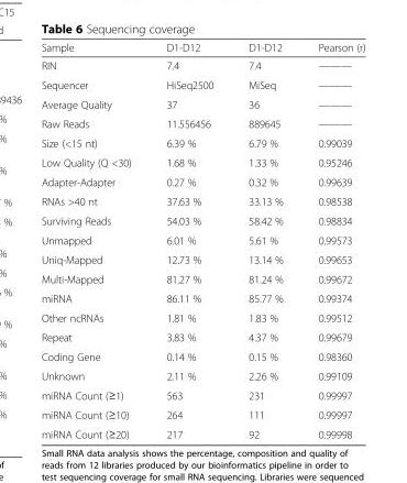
<table><thead><tr><td>Sample</td><td>D1-D12</td><td>D1-D12</td><td>Pearson (r)</td></tr></thead><tbody><tr><td>RIN</td><td>7.4</td><td>7.4</td><td>———</td></tr><tr><td>Sequencer</td><td>HiSeq2500</td><td>MiSeq</td><td>———</td></tr><tr><td>Average Quality</td><td>37</td><td>36</td><td>———</td></tr><tr><td>Raw Reads</td><td>11.556456</td><td>889645</td><td>———</td></tr><tr><td>Size (&lt;15 nt)</td><td>6.39 %</td><td>6.79 %</td><td>0.99039</td></tr><tr><td>Low Quality (Q &lt;30)</td><td>1.68 %</td><td>1.33 %</td><td>0.95246</td></tr><tr><td>Adapter-Adapter</td><td>0.27 %</td><td>0.32 %</td><td>0.99639</td></tr><tr><td>RNAs &gt;40 nt</td><td>37.63 %</td><td>33.13 %</td><td>0.98538</td></tr><tr><td>Surviving Reads</td><td>54.03 %</td><td>58.42 %</td><td>0.98834</td></tr><tr><td>Unmapped</td><td>6.01 %</td><td>5.61 %</td><td>0.99573</td></tr><tr><td>Uniq-Mapped</td><td>12.73 %</td><td>13.14 %</td><td>0.99653</td></tr><tr><td>Multi-Mapped</td><td>81.27 %</td><td>81.24 %</td><td>0.99672</td></tr><tr><td>miRNA</td><td>86.11 %</td><td>85.77 %</td><td>0.99374</td></tr><tr><td>Other ncRNAs</td><td>1.81 %</td><td>1.83 %</td><td>0.99512</td></tr><tr><td>Repeat</td><td>3.83 %</td><td>4.37 %</td><td>0.99679</td></tr><tr><td>Coding Gene</td><td>0.14 %</td><td>0.15 %</td><td>0.98360</td></tr><tr><td>Unknown</td><td>2.11 %</td><td>2.26 %</td><td>0.99109</td></tr><tr><td>miRNA Count (≥1)</td><td>563</td><td>231</td><td>0.99997</td></tr><tr><td>miRNA Count (≥10)</td><td>264</td><td>111</td><td>0.99997</td></tr><tr><td>miRNA Count (≥20)</td><td>217</td><td>92</td><td>0.99998</td></tr></tbody></table>